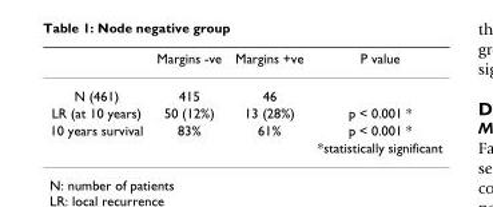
<table><thead><tr><td></td><td>Margins -ve</td><td>Margins +ve</td><td>P value</td></tr></thead><tbody><tr><td>N (461)</td><td>415</td><td>46</td><td></td></tr><tr><td>LR (at 10 years)</td><td>50 (12%)</td><td>13 (28%)</td><td>p &lt; 0.001 *</td></tr><tr><td rowspan="2">10 years survival</td><td>83%</td><td>61%</td><td>p &lt; 0.001 *</td></tr><tr><td></td><td></td><td>*statistically significant</td></tr></tbody></table>